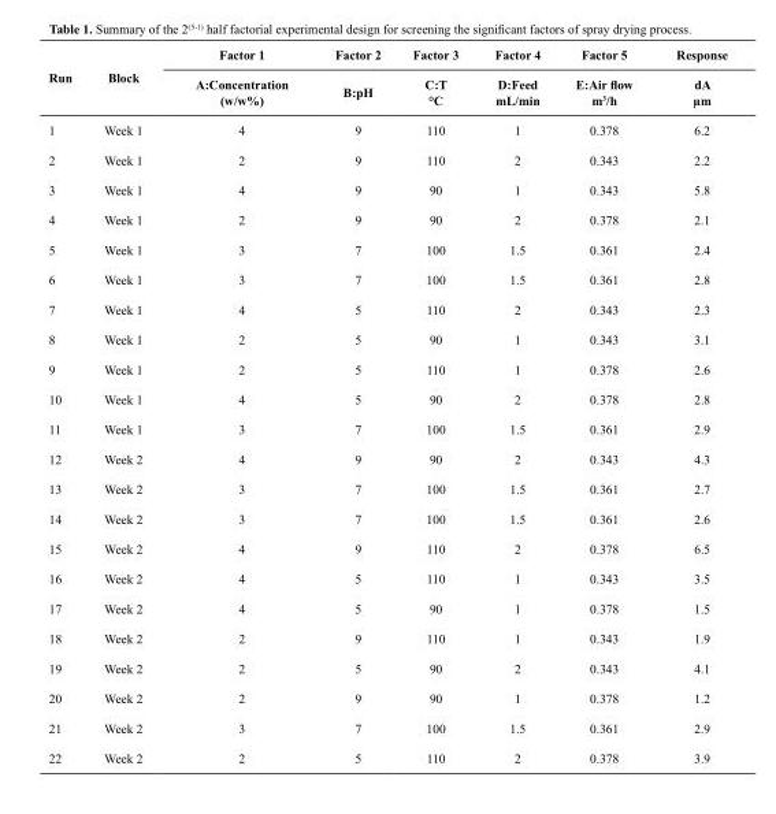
<table><thead><tr><td rowspan="2">Run</td><td rowspan="2">Block</td><td rowspan="2">Factor 1 A:Concentration (w/w%)</td><td rowspan="2">Factor 2 B:pH</td><td rowspan="2">Factor 3 C:T °C</td><td rowspan="2">Factor 4 D:Feed mL/min</td><td rowspan="2">Factor 5 E:Air flow m<sup>3</sup>/h</td><td rowspan="2">Response dA µm</td></tr><tr></tr></thead><tbody><tr><td>1</td><td>Week 1</td><td>4</td><td>9</td><td>110</td><td>1</td><td>0.378</td><td>6.2</td></tr><tr><td>2</td><td>Week 1</td><td>2</td><td>9</td><td>110</td><td>2</td><td>0.343</td><td>2.2</td></tr><tr><td>3</td><td>Week 1</td><td>4</td><td>9</td><td>90</td><td>1</td><td>0.343</td><td>5.8</td></tr><tr><td>4</td><td>Week 1</td><td>2</td><td>9</td><td>90</td><td>2</td><td>0.378</td><td>2.1</td></tr><tr><td>5</td><td>Week 1</td><td>3</td><td>7</td><td>100</td><td>1.5</td><td>0.361</td><td>2.4</td></tr><tr><td>6</td><td>Week 1</td><td>3</td><td>7</td><td>100</td><td>1.5</td><td>0.361</td><td>2.8</td></tr><tr><td>7</td><td>Week 1</td><td>4</td><td>5</td><td>110</td><td>2</td><td>0.343</td><td>2.3</td></tr><tr><td>8</td><td>Week 1</td><td>2</td><td>5</td><td>90</td><td>1</td><td>0.343</td><td>3.1</td></tr><tr><td>9</td><td>Week 1</td><td>2</td><td>5</td><td>110</td><td>1</td><td>0.378</td><td>2.6</td></tr><tr><td>10</td><td>Week 1</td><td>4</td><td>5</td><td>90</td><td>2</td><td>0.378</td><td>2.8</td></tr><tr><td>11</td><td>Week 1</td><td>3</td><td>7</td><td>100</td><td>1.5</td><td>0.361</td><td>2.9</td></tr><tr><td>12</td><td>Week 2</td><td>4</td><td>9</td><td>90</td><td>2</td><td>0.343</td><td>4.3</td></tr><tr><td>13</td><td>Week 2</td><td>3</td><td>7</td><td>100</td><td>1.5</td><td>0.361</td><td>2.7</td></tr><tr><td>14</td><td>Week 2</td><td>3</td><td>7</td><td>100</td><td>1.5</td><td>0.361</td><td>2.6</td></tr><tr><td>15</td><td>Week 2</td><td>4</td><td>9</td><td>110</td><td>2</td><td>0.378</td><td>6.5</td></tr><tr><td>16</td><td>Week 2</td><td>4</td><td>5</td><td>110</td><td>1</td><td>0.343</td><td>3.5</td></tr><tr><td>17</td><td>Week 2</td><td>4</td><td>5</td><td>90</td><td>1</td><td>0.378</td><td>1.5</td></tr><tr><td>18</td><td>Week 2</td><td>2</td><td>9</td><td>110</td><td>1</td><td>0.343</td><td>1.9</td></tr><tr><td>19</td><td>Week 2</td><td>2</td><td>5</td><td>90</td><td>2</td><td>0.343</td><td>4.1</td></tr><tr><td>20</td><td>Week 2</td><td>2</td><td>9</td><td>90</td><td>1</td><td>0.378</td><td>1.2</td></tr><tr><td>21</td><td>Week 2</td><td>3</td><td>7</td><td>100</td><td>1.5</td><td>0.361</td><td>2.9</td></tr><tr><td>22</td><td>Week 2</td><td>2</td><td>5</td><td>110</td><td>2</td><td>0.378</td><td>3.9</td></tr></tbody></table>